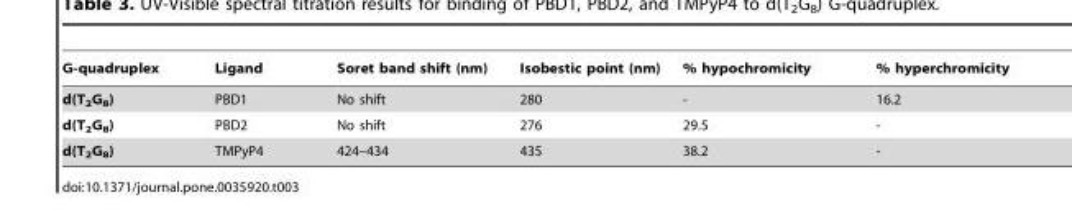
<table><thead><tr><td>G-quadruplex</td><td>Ligand</td><td>Soret band shift (nm)</td><td>Isobestic point (nm)</td><td>% hypochromicity</td><td>% hyperchromicity</td></tr></thead><tbody><tr><td>d(T<sub>2</sub>G<sub>8</sub>)</td><td>PBD1</td><td>No shift</td><td>280</td><td>-</td><td>16.2</td></tr><tr><td>d(T<sub>2</sub>G<sub>8</sub>)</td><td>PBD2</td><td>No shift</td><td>276</td><td>29.5</td><td>-</td></tr><tr><td>d(T<sub>2</sub>G<sub>8</sub>)</td><td>TMPyP4</td><td>424–434</td><td>435</td><td>38.2</td><td>-</td></tr></tbody></table>